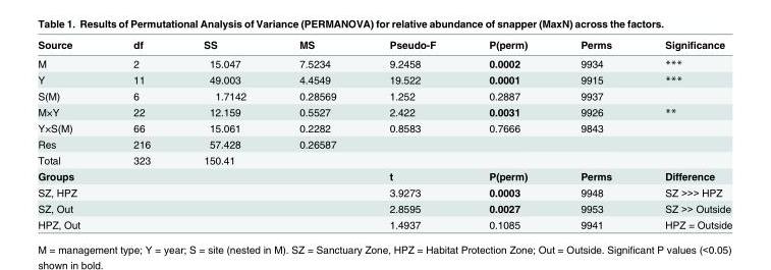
<table><thead><tr><td>Source</td><td>df</td><td>SS</td><td>MS</td><td>Pseudo-F</td><td>P(perm)</td><td>Perms</td><td>Significance</td></tr></thead><tbody><tr><td>M</td><td>2</td><td>15.047</td><td>7.5234</td><td>9.2458</td><td>0.0002</td><td>9934</td><td>***</td></tr><tr><td>Y</td><td>11</td><td>49.003</td><td>4.4549</td><td>19.522</td><td>0.0001</td><td>9915</td><td>***</td></tr><tr><td>S(M)</td><td>6</td><td>1.7142</td><td>0.28569</td><td>1.252</td><td>0.2887</td><td>9937</td><td></td></tr><tr><td>M×Y</td><td>22</td><td>12.159</td><td>0.5527</td><td>2.422</td><td>0.0031</td><td>9926</td><td>**</td></tr><tr><td>Y×S(M)</td><td>66</td><td>15.061</td><td>0.2282</td><td>0.8583</td><td>0.7666</td><td>9843</td><td></td></tr><tr><td>Res</td><td>216</td><td>57.428</td><td>0.26587</td><td></td><td></td><td></td><td></td></tr><tr><td>Total</td><td>323</td><td>150.41</td><td></td><td></td><td></td><td></td><td></td></tr><tr><td>Groups</td><td></td><td></td><td></td><td>t</td><td>P(perm)</td><td>Perms</td><td>Difference</td></tr><tr><td>SZ, HPZ</td><td></td><td></td><td></td><td>3.9273</td><td>0.0003</td><td>9948</td><td>SZ &gt;&gt;&gt; HPZ</td></tr><tr><td>SZ, Out</td><td></td><td></td><td></td><td>2.8595</td><td>0.0027</td><td>9953</td><td>SZ &gt;&gt; Outside</td></tr><tr><td>HPZ, Out</td><td></td><td></td><td></td><td>1.4937</td><td>0.1085</td><td>9941</td><td>HPZ = Outside</td></tr></tbody></table>